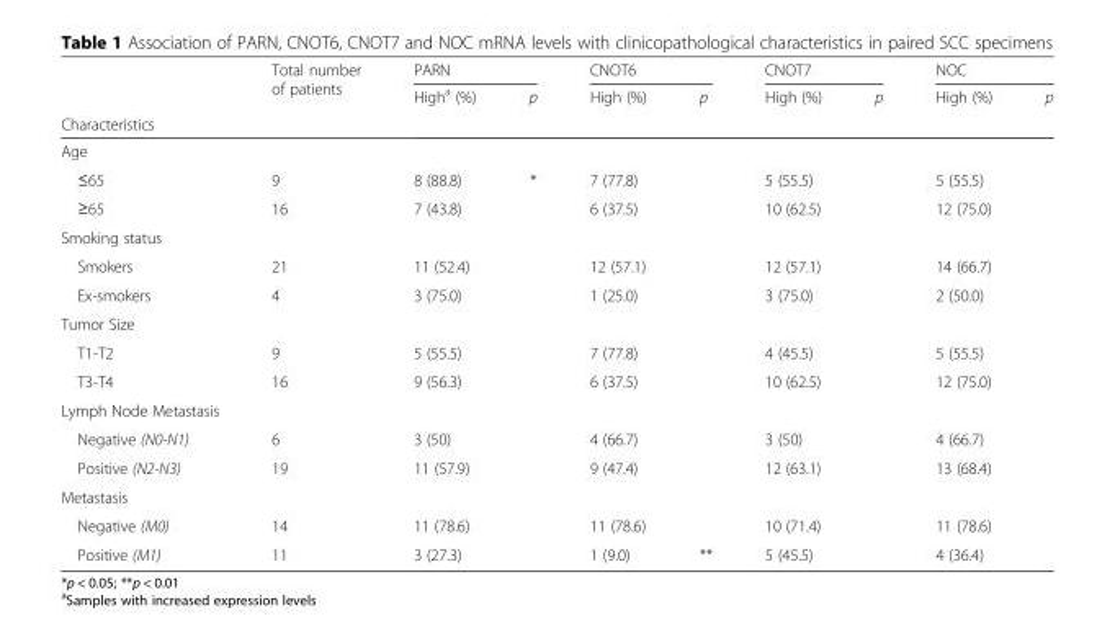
<table><thead><tr><td rowspan="3">Characteristics</td><td rowspan="3">Total number of patients</td><td colspan="2">PARN</td><td colspan="2">CNOT6</td><td colspan="2">CNOT7</td><td colspan="2">NOC</td></tr><tr><td rowspan="2">High<sup>a</sup> (%)</td><td rowspan="2">p</td><td rowspan="2">High (%)</td><td rowspan="2">p</td><td rowspan="2">High (%)</td><td rowspan="2">p</td><td rowspan="2">High (%)</td><td rowspan="2">p</td></tr><tr></tr></thead><tbody><tr><td colspan="10">Age</td></tr><tr><td>≤65</td><td>9</td><td>8 (88.8)</td><td>*</td><td>7 (77.8)</td><td></td><td>5 (55.5)</td><td></td><td>5 (55.5)</td><td></td></tr><tr><td>≥65</td><td>16</td><td>7 (43.8)</td><td></td><td>6 (37.5)</td><td></td><td>10 (62.5)</td><td></td><td>12 (75.0)</td><td></td></tr><tr><td colspan="10">Smoking status</td></tr><tr><td>Smokers</td><td>21</td><td>11 (52.4)</td><td></td><td>12 (57.1)</td><td></td><td>12 (57.1)</td><td></td><td>14 (66.7)</td><td></td></tr><tr><td>Ex-smokers</td><td>4</td><td>3 (75.0)</td><td></td><td>1 (25.0)</td><td></td><td>3 (75.0)</td><td></td><td>2 (50.0)</td><td></td></tr><tr><td colspan="10">Tumor Size</td></tr><tr><td>T1-T2</td><td>9</td><td>5 (55.5)</td><td></td><td>7 (77.8)</td><td></td><td>4 (45.5)</td><td></td><td>5 (55.5)</td><td></td></tr><tr><td>T3-T4</td><td>16</td><td>9 (56.3)</td><td></td><td>6 (37.5)</td><td></td><td>10 (62.5)</td><td></td><td>12 (75.0)</td><td></td></tr><tr><td colspan="10">Lymph Node Metastasis</td></tr><tr><td>Negative (N0-N1)</td><td>6</td><td>3 (50)</td><td></td><td>4 (66.7)</td><td></td><td>3 (50)</td><td></td><td>4 (66.7)</td><td></td></tr><tr><td>Positive (N2-N3)</td><td>19</td><td>11 (57.9)</td><td></td><td>9 (47.4)</td><td></td><td>12 (63.1)</td><td></td><td>13 (68.4)</td><td></td></tr><tr><td colspan="10">Metastasis</td></tr><tr><td>Negative (M0)</td><td>14</td><td>11 (78.6)</td><td></td><td>11 (78.6)</td><td></td><td>10 (71.4)</td><td></td><td>11 (78.6)</td><td></td></tr><tr><td>Positive (M1)</td><td>11</td><td>3 (27.3)</td><td></td><td>1 (9.0)</td><td>**</td><td>5 (45.5)</td><td></td><td>4 (36.4)</td><td></td></tr></tbody></table>